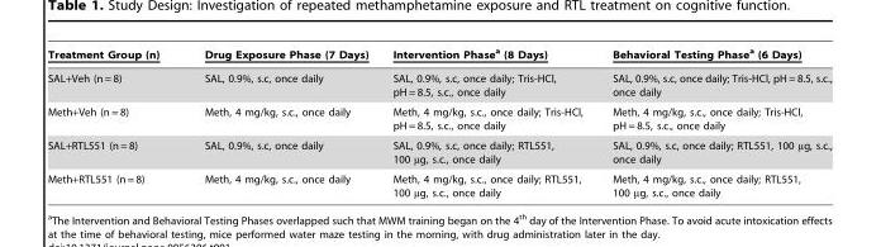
<table><thead><tr><td>Treatment Group (n)</td><td>Drug Exposure Phase (7 Days)</td><td>Intervention Phasea (8 Days)</td><td>Behavioral Testing Phasea (6 Days)</td></tr></thead><tbody><tr><td>SAL+Veh (n = 8)</td><td>SAL, 0.9%, s.c, once daily</td><td>SAL, 0.9%, s.c, once daily; Tris-HCl, pH = 8.5, s.c., once daily</td><td>SAL, 0.9%, s.c, once daily; Tris-HCl, pH = 8.5, s.c., once daily</td></tr><tr><td>Meth+Veh (n = 8)</td><td>Meth, 4 mg/kg, s.c., once daily</td><td>Meth, 4 mg/kg, s.c., once daily; Tris-HCl, pH = 8.5, s.c., once daily</td><td>Meth, 4 mg/kg, s.c., once daily; Tris-HCl, pH = 8.5, s.c., once daily</td></tr><tr><td>SAL+RTL551 (n = 8)</td><td>SAL, 0.9%, s.c, once daily</td><td>SAL, 0.9%, s.c, once daily; RTL551, 100 µg, s.c., once daily</td><td>SAL, 0.9%, s.c, once daily; RTL551, 100 µg, s.c., once daily</td></tr><tr><td>Meth+RTL551 (n = 8)</td><td>Meth, 4 mg/kg, s.c., once daily</td><td>Meth, 4 mg/kg, s.c., once daily; RTL551, 100 µg, s.c., once daily</td><td>Meth, 4 mg/kg, s.c., once daily; RTL551, 100 µg, s.c., once daily</td></tr></tbody></table>